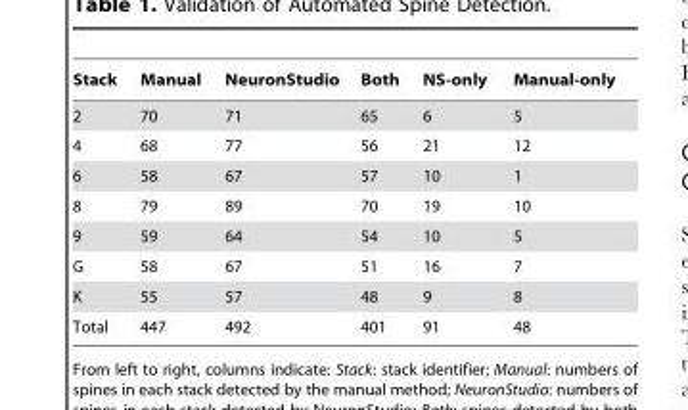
<table><thead><tr><td>Stack</td><td>Manual</td><td>NeuronStudio</td><td>Both</td><td>NS-only</td><td>Manual-only</td></tr></thead><tbody><tr><td>2</td><td>70</td><td>71</td><td>65</td><td>6</td><td>5</td></tr><tr><td>4</td><td>68</td><td>77</td><td>56</td><td>21</td><td>12</td></tr><tr><td>6</td><td>58</td><td>67</td><td>57</td><td>10</td><td>1</td></tr><tr><td>8</td><td>79</td><td>89</td><td>70</td><td>19</td><td>10</td></tr><tr><td>9</td><td>59</td><td>64</td><td>54</td><td>10</td><td>5</td></tr><tr><td>G</td><td>58</td><td>67</td><td>51</td><td>16</td><td>7</td></tr><tr><td>K</td><td>55</td><td>57</td><td>48</td><td>9</td><td>8</td></tr><tr><td>Total</td><td>447</td><td>492</td><td>401</td><td>91</td><td>48</td></tr></tbody></table>